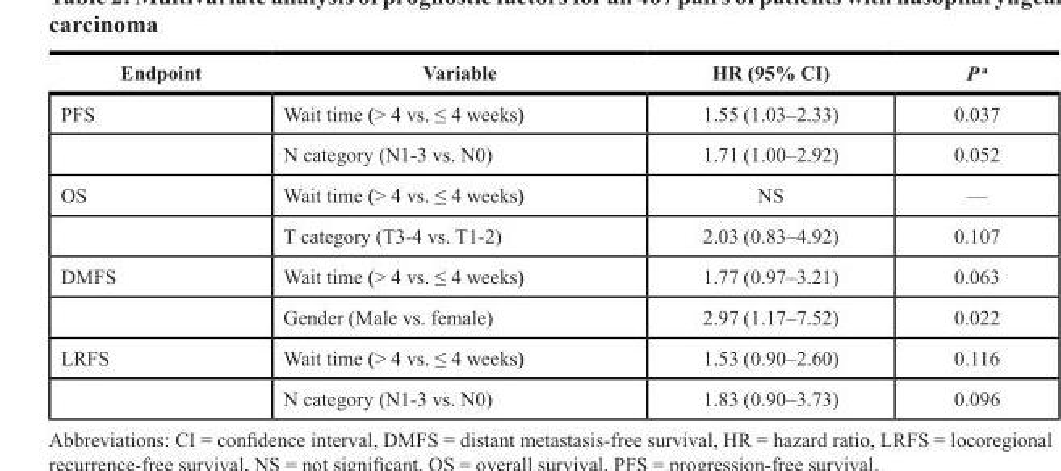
<table><thead><tr><td>Endpoint</td><td>Variable</td><td>HR (95% CI)</td><td>P <sup>a</sup></td></tr></thead><tbody><tr><td rowspan="2">PFS</td><td>Wait time (&gt; 4 vs. ≤ 4 weeks)</td><td>1.55 (1.03–2.33)</td><td>0.037</td></tr><tr><td>N category (N1-3 vs. N0)</td><td>1.71 (1.00–2.92)</td><td>0.052</td></tr><tr><td rowspan="2">OS</td><td>Wait time (&gt; 4 vs. ≤ 4 weeks)</td><td>NS</td><td>—</td></tr><tr><td>T category (T3-4 vs. T1-2)</td><td>2.03 (0.83–4.92)</td><td>0.107</td></tr><tr><td rowspan="2">DMFS</td><td>Wait time (&gt; 4 vs. ≤ 4 weeks)</td><td>1.77 (0.97–3.21)</td><td>0.063</td></tr><tr><td>Gender (Male vs. female)</td><td>2.97 (1.17–7.52)</td><td>0.022</td></tr><tr><td rowspan="2">LRFS</td><td>Wait time (&gt; 4 vs. ≤ 4 weeks)</td><td>1.53 (0.90–2.60)</td><td>0.116</td></tr><tr><td>N category (N1-3 vs. N0)</td><td>1.83 (0.90–3.73)</td><td>0.096</td></tr></tbody></table>